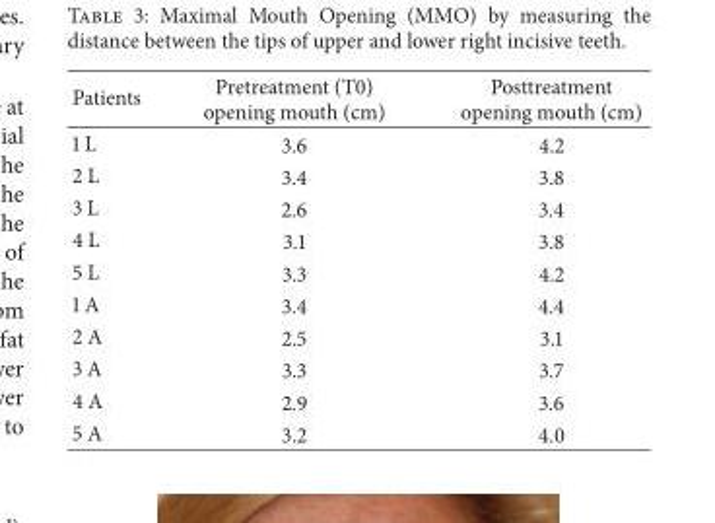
<table><thead><tr><td>Patients</td><td>Pretreatment (T0) opening mouth (cm)</td><td>Posttreatment opening mouth (cm)</td></tr></thead><tbody><tr><td>1 L</td><td>3.6</td><td>4.2</td></tr><tr><td>2 L</td><td>3.4</td><td>3.8</td></tr><tr><td>3 L</td><td>2.6</td><td>3.4</td></tr><tr><td>4 L</td><td>3.1</td><td>3.8</td></tr><tr><td>5 L</td><td>3.3</td><td>4.2</td></tr><tr><td>1 A</td><td>3.4</td><td>4.4</td></tr><tr><td>2 A</td><td>2.5</td><td>3.1</td></tr><tr><td>3 A</td><td>3.3</td><td>3.7</td></tr><tr><td>4 A</td><td>2.9</td><td>3.6</td></tr><tr><td>5 A</td><td>3.2</td><td>4.0</td></tr></tbody></table>